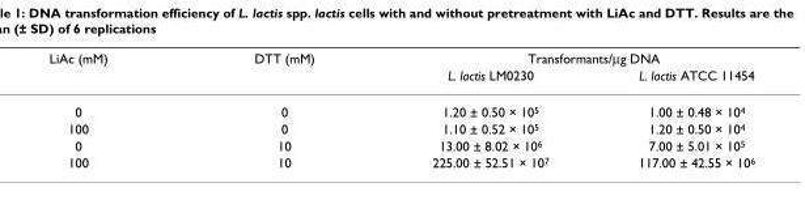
<table><thead><tr><td rowspan="2">LiAc (mM)</td><td rowspan="2">DTT (mM)</td><td colspan="2">Transformants/μg DNA</td></tr><tr><td>L. lactis LM0230</td><td>L. lactis ATCC 11454</td></tr></thead><tbody><tr><td>0</td><td>0</td><td>1.20 ± 0.50 × 105</td><td>1.00 ± 0.48 × 104</td></tr><tr><td>100</td><td>0</td><td>1.10 ± 0.52 × 105</td><td>1.20 ± 0.50 × 104</td></tr><tr><td>0</td><td>10</td><td>13.00 ± 8.02 × 106</td><td>7.00 ± 5.01 × 105</td></tr><tr><td>100</td><td>10</td><td>225.00 ± 52.51 × 107</td><td>117.00 ± 42.55 × 106</td></tr></tbody></table>